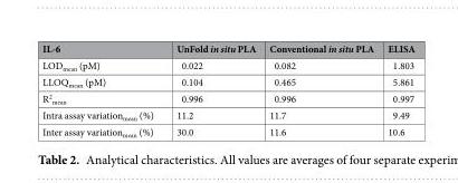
<table><thead><tr><td>IL-6</td><td>UnFold in situ PLA</td><td>Conventional in situ PLA</td><td>ELISA</td></tr></thead><tbody><tr><td>LOD<sub>mean</sub> (pM)</td><td>0.022</td><td>0.082</td><td>1.803</td></tr><tr><td>LLOQ<sub>mean</sub> (pM)</td><td>0.104</td><td>0.465</td><td>5.861</td></tr><tr><td>R<sup>2</sup> <sub>mean</sub></td><td>0.996</td><td>0.996</td><td>0.997</td></tr><tr><td>Intra assay variation<sub>mean</sub> (%)</td><td>11.2</td><td>11.7</td><td>9.49</td></tr><tr><td>Inter assay variation<sub>mean</sub> (%)</td><td>30.0</td><td>11.6</td><td>10.6</td></tr></tbody></table>